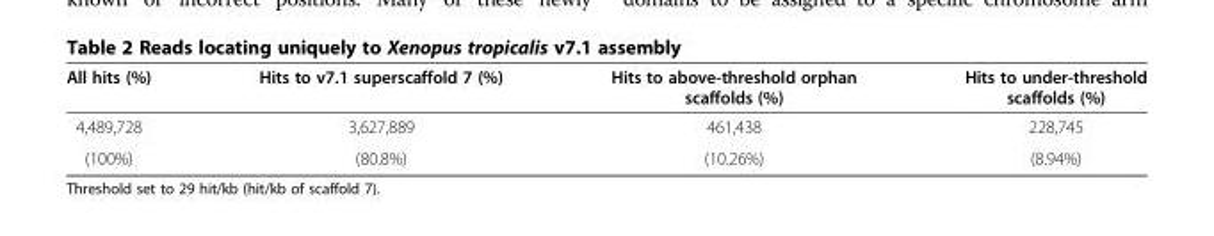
<table><thead><tr><td>All hits (%)</td><td>Hits to v7.1 superscaffold 7 (%)</td><td>Hits to above-threshold orphan scaffolds (%)</td><td>Hits to under-threshold scaffolds (%)</td></tr></thead><tbody><tr><td>4,489,728</td><td>3,627,889</td><td>461,438</td><td>228,745</td></tr><tr><td>(100%)</td><td>(80.8%)</td><td>(10.26%)</td><td>(8.94%)</td></tr></tbody></table>